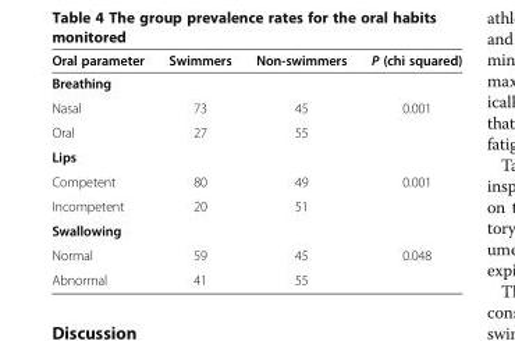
<table><thead><tr><td>Oral parameter</td><td>Swimmers</td><td>Non-swimmers</td><td>P (chi squared)</td></tr></thead><tbody><tr><td colspan="4">Breathing</td></tr><tr><td>Nasal</td><td>73</td><td>45</td><td>0.001</td></tr><tr><td>Oral</td><td>27</td><td>55</td><td></td></tr><tr><td colspan="4">Lips</td></tr><tr><td>Competent</td><td>80</td><td>49</td><td>0.001</td></tr><tr><td>Incompetent</td><td>20</td><td>51</td><td></td></tr><tr><td colspan="4">Swallowing</td></tr><tr><td>Normal</td><td>59</td><td>45</td><td>0.048</td></tr><tr><td>Abnormal</td><td>41</td><td>55</td><td></td></tr></tbody></table>